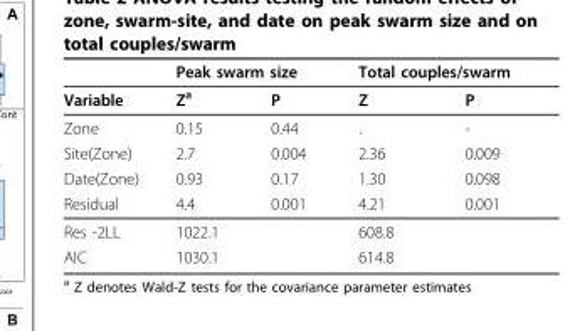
<table><thead><tr><td rowspan="2">Variable</td><td colspan="2">Peak swarm size</td><td colspan="2">Total couples/swarm</td></tr><tr><td>Z<sup>a</sup></td><td>P</td><td>Z</td><td>P</td></tr></thead><tbody><tr><td>Zone</td><td>0.15</td><td>0.44</td><td>.</td><td>-</td></tr><tr><td>Site(Zone)</td><td>2.7</td><td>0.004</td><td>2.36</td><td>0.009</td></tr><tr><td>Date(Zone)</td><td>0.93</td><td>0.17</td><td>1.30</td><td>0.098</td></tr><tr><td>Residual</td><td>4.4</td><td>0.001</td><td>4.21</td><td>0.001</td></tr><tr><td>Res -2LL</td><td>1022.1</td><td></td><td>608.8</td><td></td></tr><tr><td>AIC</td><td>1030.1</td><td></td><td>614.8</td><td></td></tr></tbody></table>